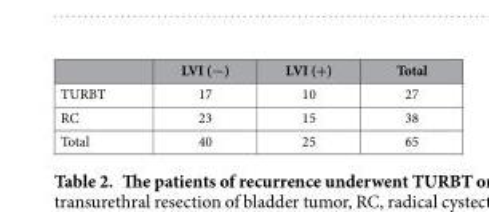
<table><thead><tr><td></td><td>LVI (−)</td><td>LVI (+)</td><td>Total</td></tr></thead><tbody><tr><td>TURBT</td><td>17</td><td>10</td><td>27</td></tr><tr><td>RC</td><td>23</td><td>15</td><td>38</td></tr><tr><td>Total</td><td>40</td><td>25</td><td>65</td></tr></tbody></table>